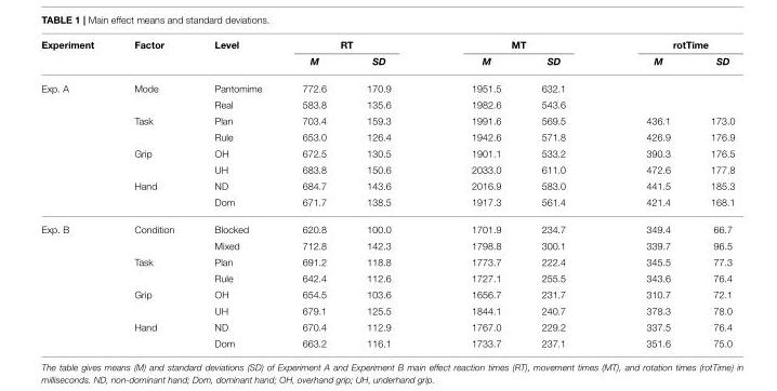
<table><thead><tr><td rowspan="2">Experiment</td><td rowspan="2">Factor</td><td rowspan="2">Level</td><td colspan="2">RT</td><td colspan="2">MT</td><td colspan="2">rotTime</td></tr><tr><td>M</td><td>SD</td><td>M</td><td>SD</td><td>M</td><td>SD</td></tr></thead><tbody><tr><td rowspan="8">Exp. A</td><td>Mode</td><td>Pantomime</td><td>772.6</td><td>170.9</td><td>1951.5</td><td>632.1</td><td></td><td></td></tr><tr><td></td><td>Real</td><td>583.8</td><td>135.6</td><td>1982.6</td><td>543.6</td><td></td><td></td></tr><tr><td>Task</td><td>Plan</td><td>703.4</td><td>159.3</td><td>1991.6</td><td>569.5</td><td>436.1</td><td>173.0</td></tr><tr><td></td><td>Rule</td><td>653.0</td><td>126.4</td><td>1942.6</td><td>571.8</td><td>426.9</td><td>176.9</td></tr><tr><td>Grip</td><td>OH</td><td>672.5</td><td>130.5</td><td>1901.1</td><td>533.2</td><td>390.3</td><td>176.5</td></tr><tr><td></td><td>UH</td><td>683.8</td><td>150.6</td><td>2033.0</td><td>611.0</td><td>472.6</td><td>177.8</td></tr><tr><td>Hand</td><td>ND</td><td>684.7</td><td>143.6</td><td>2016.9</td><td>583.0</td><td>441.5</td><td>185.3</td></tr><tr><td></td><td>Dom</td><td>671.7</td><td>138.5</td><td>1917.3</td><td>561.4</td><td>421.4</td><td>168.1</td></tr><tr><td rowspan="8">Exp. B</td><td>Condition</td><td>Blocked</td><td>620.8</td><td>100.0</td><td>1701.9</td><td>234.7</td><td>349.4</td><td>66.7</td></tr><tr><td></td><td>Mixed</td><td>712.8</td><td>142.3</td><td>1798.8</td><td>300.1</td><td>339.7</td><td>96.5</td></tr><tr><td>Task</td><td>Plan</td><td>691.2</td><td>118.8</td><td>1773.7</td><td>222.4</td><td>345.5</td><td>77.3</td></tr><tr><td></td><td>Rule</td><td>642.4</td><td>112.6</td><td>1727.1</td><td>255.5</td><td>343.6</td><td>76.4</td></tr><tr><td>Grip</td><td>OH</td><td>654.5</td><td>103.6</td><td>1656.7</td><td>231.7</td><td>310.7</td><td>72.1</td></tr><tr><td></td><td>UH</td><td>679.1</td><td>125.5</td><td>1844.1</td><td>240.7</td><td>378.3</td><td>78.0</td></tr><tr><td>Hand</td><td>ND</td><td>670.4</td><td>112.9</td><td>1767.0</td><td>229.2</td><td>337.5</td><td>76.4</td></tr><tr><td></td><td>Dom</td><td>663.2</td><td>116.1</td><td>1733.7</td><td>237.1</td><td>351.6</td><td>75.0</td></tr></tbody></table>